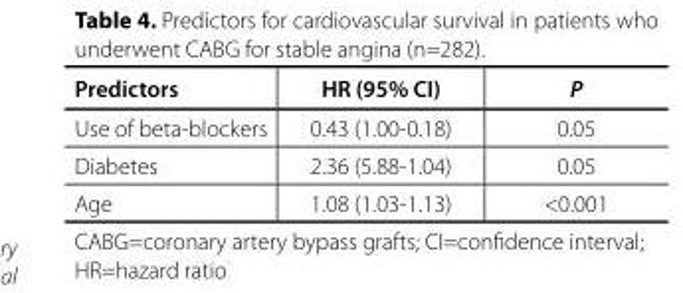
<table><thead><tr><td>Predictors</td><td>HR (95% CI)</td><td>P</td></tr></thead><tbody><tr><td>Use of beta-blockers</td><td>0.43 (1.00-0.18)</td><td>0.05</td></tr><tr><td>Diabetes</td><td>2.36 (5.88-1.04)</td><td>0.05</td></tr><tr><td>Age</td><td>1.08 (1.03-1.13)</td><td>&lt;0.001</td></tr></tbody></table>